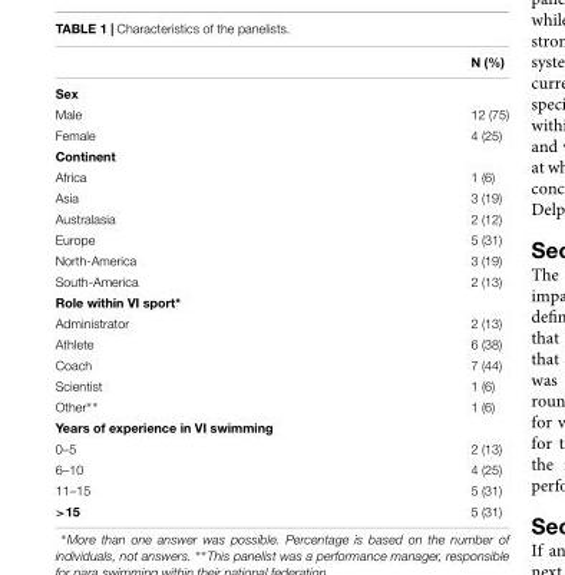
<table><thead><tr><td></td><td>N (%)</td></tr></thead><tbody><tr><td colspan="2">Sex</td></tr><tr><td>Male</td><td>12 (75)</td></tr><tr><td>Female</td><td>4 (25)</td></tr><tr><td colspan="2">Continent</td></tr><tr><td>Africa</td><td>1 (6)</td></tr><tr><td>Asia</td><td>3 (19)</td></tr><tr><td>Australasia</td><td>2 (12)</td></tr><tr><td>Europe</td><td>5 (31)</td></tr><tr><td>North-America</td><td>3 (19)</td></tr><tr><td>South-America</td><td>2 (13)</td></tr><tr><td colspan="2">Role within VI sport∗</td></tr><tr><td>Administrator</td><td>2 (13)</td></tr><tr><td>Athlete</td><td>6 (38)</td></tr><tr><td>Coach</td><td>7 (44)</td></tr><tr><td>Scientist</td><td>1 (6)</td></tr><tr><td>Other∗∗</td><td>1 (6)</td></tr><tr><td colspan="2">Years of experience in VI swimming</td></tr><tr><td>0–5</td><td>2 (13)</td></tr><tr><td>6–10</td><td>4 (25)</td></tr><tr><td>11–15</td><td>5 (31)</td></tr><tr><td>&gt;15</td><td>5 (31)</td></tr></tbody></table>